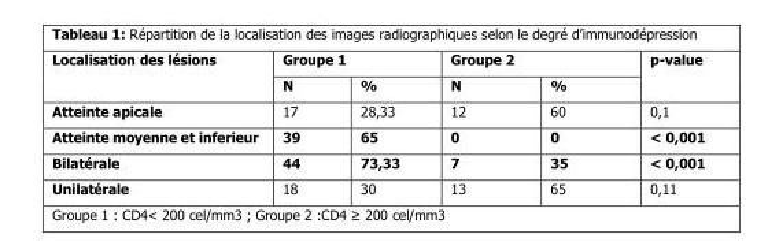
<table><thead><tr><td rowspan="2">Localisation des lésions</td><td colspan="2">Groupe 1</td><td colspan="2">Groupe 2</td><td rowspan="2">p-value</td></tr><tr><td>N</td><td>%</td><td>N</td><td>%</td></tr></thead><tbody><tr><td>Atteinte apicale</td><td>17</td><td>28,33</td><td>12</td><td>60</td><td>0,1</td></tr><tr><td>Atteinte moyenne et inferieur</td><td>39</td><td>65</td><td>0</td><td>0</td><td>&lt; 0,001</td></tr><tr><td>Bilatérale</td><td>44</td><td>73,33</td><td>7</td><td>35</td><td>&lt; 0,001</td></tr><tr><td>Unilatérale</td><td>18</td><td>30</td><td>13</td><td>65</td><td>0,11</td></tr></tbody></table>